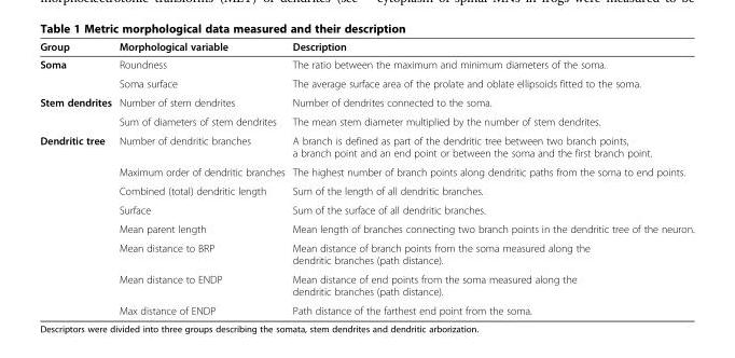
<table><thead><tr><td>Group</td><td>Morphological variable</td><td>Description</td></tr></thead><tbody><tr><td rowspan="2">Soma</td><td>Roundness</td><td>The ratio between the maximum and minimum diameters of the soma.</td></tr><tr><td>Soma surface</td><td>The average surface area of the prolate and oblate ellipsoids fitted to the soma.</td></tr><tr><td rowspan="2">Stem dendrites</td><td>Number of stem dendrites</td><td>Number of dendrites connected to the soma.</td></tr><tr><td>Sum of diameters of stem dendrites</td><td>The mean stem diameter multiplied by the number of stem dendrites.</td></tr><tr><td rowspan="8">Dendritic tree</td><td>Number of dendritic branches</td><td>A branch is defined as part of the dendritic tree between two branch points, a branch point and an end point or between the soma and the first branch point.</td></tr><tr><td>Maximum order of dendritic branches</td><td>The highest number of branch points along dendritic paths from the soma to end points.</td></tr><tr><td>Combined (total) dendritic length</td><td>Sum of the length of all dendritic branches.</td></tr><tr><td>Surface</td><td>Sum of the surface of all dendritic branches.</td></tr><tr><td>Mean parent length</td><td>Mean length of branches connecting two branch points in the dendritic tree of the neuron.</td></tr><tr><td>Mean distance to BRP</td><td>Mean distance of branch points from the soma measured along the dendritic branches (path distance).</td></tr><tr><td>Mean distance to ENDP</td><td>Mean distance of end points from the soma measured along the dendritic branches (path distance).</td></tr><tr><td>Max distance of ENDP</td><td>Path distance of the farthest end point from the soma.</td></tr></tbody></table>